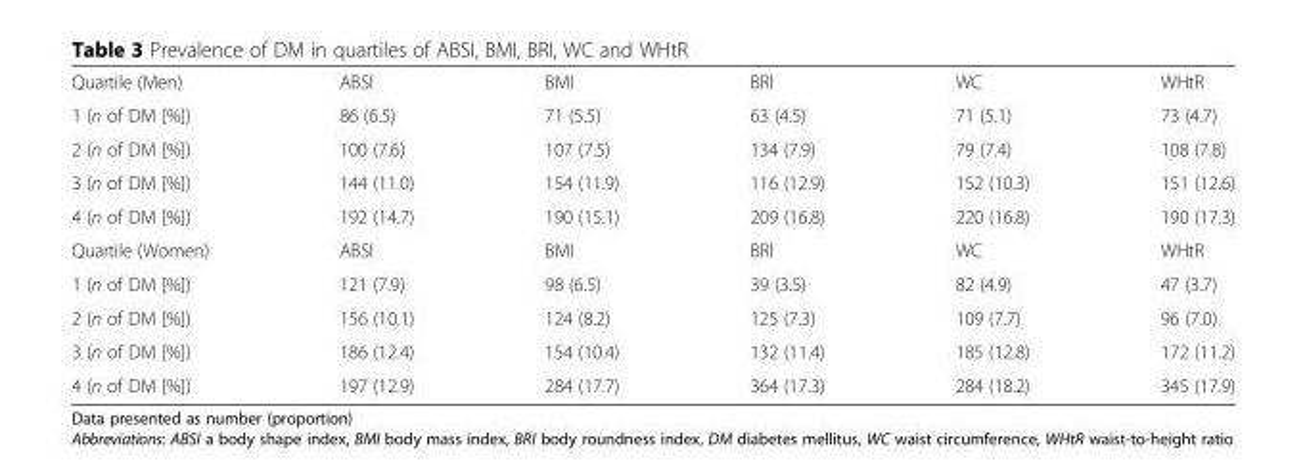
<table><tbody><tr><td>Quartile (Men)</td><td>ABSI</td><td>BMI</td><td>BRI</td><td>WC</td><td>WHtR</td></tr><tr><td>1 (n of DM [%])</td><td>86 (6.5)</td><td>71 (5.5)</td><td>63 (4.5)</td><td>71 (5.1)</td><td>73 (4.7)</td></tr><tr><td>2 (n of DM [%])</td><td>100 (7.6)</td><td>107 (7.5)</td><td>134 (7.9)</td><td>79 (7.4)</td><td>108 (7.8)</td></tr><tr><td>3 (n of DM [%])</td><td>144 (11.0)</td><td>154 (11.9)</td><td>116 (12.9)</td><td>152 (10.3)</td><td>151 (12.6)</td></tr><tr><td>4 (n of DM [%])</td><td>192 (14.7)</td><td>190 (15.1)</td><td>209 (16.8)</td><td>220 (16.8)</td><td>190 (17.3)</td></tr><tr><td>Quartile (Women)</td><td>ABSI</td><td>BMI</td><td>BRI</td><td>WC</td><td>WHtR</td></tr><tr><td>1 (n of DM [%])</td><td>121 (7.9)</td><td>98 (6.5)</td><td>39 (3.5)</td><td>82 (4.9)</td><td>47 (3.7)</td></tr><tr><td>2 (n of DM [%])</td><td>156 (10.1)</td><td>124 (8.2)</td><td>125 (7.3)</td><td>109 (7.7)</td><td>96 (7.0)</td></tr><tr><td>3 (n of DM [%])</td><td>186 (12.4)</td><td>154 (10.4)</td><td>132 (11.4)</td><td>185 (12.8)</td><td>172 (11.2)</td></tr><tr><td>4 (n of DM [%])</td><td>197 (12.9)</td><td>284 (17.7)</td><td>364 (17.3)</td><td>284 (18.2)</td><td>345 (17.9)</td></tr></tbody></table>